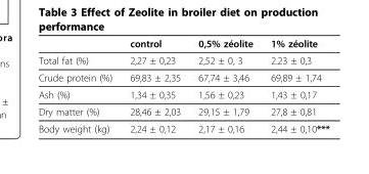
<table><thead><tr><td></td><td>control</td><td>0,5% zéolite</td><td>1% zéolite</td></tr></thead><tbody><tr><td>Total fat (%)</td><td>2,27 ± 0,23</td><td>2,52 ± 0, 3</td><td>2.23 ± 0,3</td></tr><tr><td>Crude protein (%)</td><td>69,83 ± 2,35</td><td>67,74 ± 3,46</td><td>69,89 ± 1,74</td></tr><tr><td>Ash (%)</td><td>1,34 ± 0,35</td><td>1,56 ± 0,23</td><td>1,43 ± 0,17</td></tr><tr><td>Dry matter (%)</td><td>28,46 ± 2,03</td><td>29,15 ± 1,79</td><td>27,8 ± 0,81</td></tr><tr><td>Body weight (kg)</td><td>2,24 ± 0,12</td><td>2,17 ± 0,16</td><td>2,44 ± 0,10***</td></tr></tbody></table>